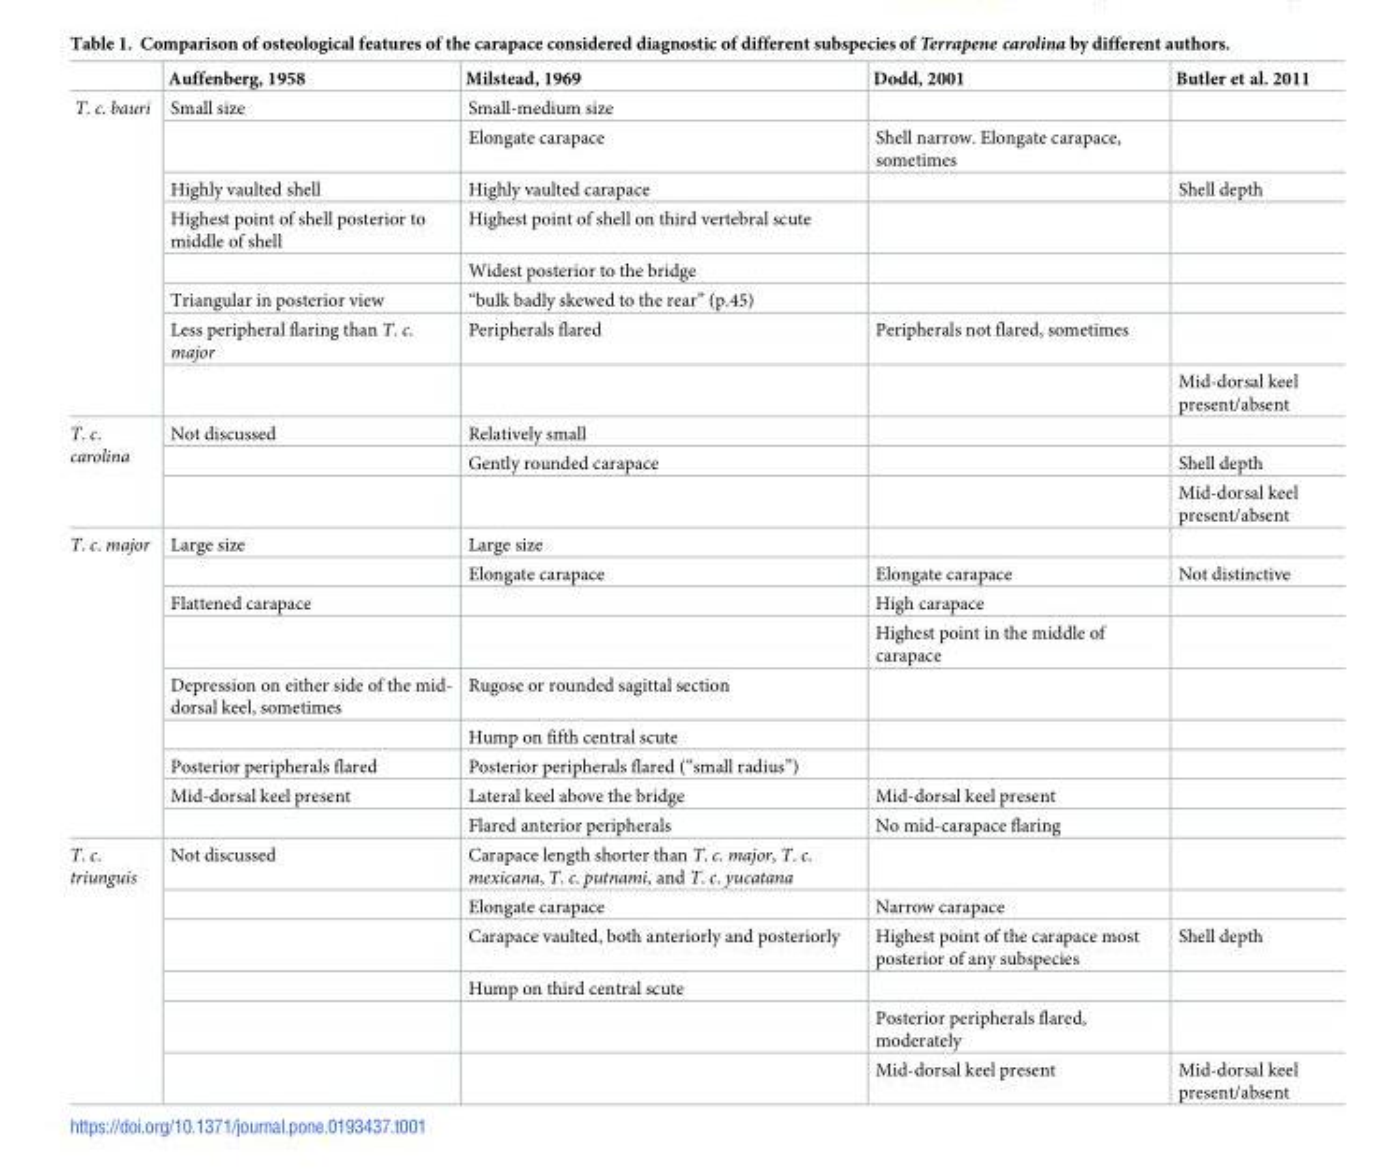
<table><thead><tr><td></td><td>Auffenberg, 1958</td><td>Milstead, 1969</td><td>Dodd, 2001</td><td>Butler et al. 2011</td></tr></thead><tbody><tr><td rowspan="8">T. c. bauri</td><td>Small size</td><td>Small-medium size</td><td></td><td></td></tr><tr><td></td><td>Elongate carapace</td><td>Shell narrow. Elongate carapace, sometimes</td><td></td></tr><tr><td>Highly vaulted shell</td><td>Highly vaulted carapace</td><td></td><td>Shell depth</td></tr><tr><td>Highest point of shell posterior to middle of shell</td><td>Highest point of shell on third vertebral scute</td><td></td><td></td></tr><tr><td></td><td>Widest posterior to the bridge</td><td></td><td></td></tr><tr><td>Triangular in posterior view</td><td>“bulk badly skewed to the rear” (p.45)</td><td></td><td></td></tr><tr><td>Less peripheral flaring than T. c. major</td><td>Peripherals flared</td><td>Peripherals not flared, sometimes</td><td></td></tr><tr><td></td><td></td><td></td><td>Mid-dorsal keel present/absent</td></tr><tr><td rowspan="3">T. c. carolina</td><td>Not discussed</td><td>Relatively small</td><td></td><td></td></tr><tr><td></td><td>Gently rounded carapace</td><td></td><td>Shell depth</td></tr><tr><td></td><td></td><td></td><td>Mid-dorsal keel present/absent</td></tr><tr><td rowspan="9">T. c. major</td><td>Large size</td><td>Large size</td><td></td><td></td></tr><tr><td></td><td>Elongate carapace</td><td>Elongate carapace</td><td>Not distinctive</td></tr><tr><td>Flattened carapace</td><td></td><td>High carapace</td><td></td></tr><tr><td></td><td></td><td>Highest point in the middle of carapace</td><td></td></tr><tr><td>Depression on either side of the mid- dorsal keel, sometimes</td><td>Rugose or rounded sagittal section</td><td></td><td></td></tr><tr><td></td><td>Hump on fifth central scute</td><td></td><td></td></tr><tr><td>Posterior peripherals flared</td><td>Posterior peripherals flared (“small radius”)</td><td></td><td></td></tr><tr><td>Mid-dorsal keel present</td><td>Lateral keel above the bridge</td><td>Mid-dorsal keel present</td><td></td></tr><tr><td></td><td>Flared anterior peripherals</td><td>No mid-carapace flaring</td><td></td></tr><tr><td rowspan="6">T. c. triunguis</td><td>Not discussed</td><td>Carapace length shorter than T. c. major, T. c. mexicana, T. c. putnami, and T. c. yucatana</td><td></td><td></td></tr><tr><td></td><td>Elongate carapace</td><td>Narrow carapace</td><td></td></tr><tr><td></td><td>Carapace vaulted, both anteriorly and posteriorly</td><td>Highest point of the carapace most posterior of any subspecies</td><td>Shell depth</td></tr><tr><td></td><td>Hump on third central scute</td><td></td><td></td></tr><tr><td></td><td></td><td>Posterior peripherals flared, moderately</td><td></td></tr><tr><td></td><td></td><td>Mid-dorsal keel present</td><td>Mid-dorsal keel present/absent</td></tr></tbody></table>